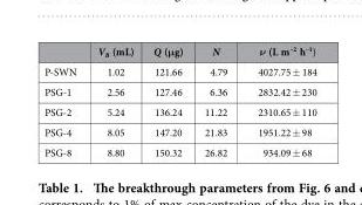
<table><thead><tr><td></td><td>V<sub>B</sub> (mL)</td><td>Q (μg)</td><td>N</td><td>ν (L m<sup>–2</sup> h<sup>–1</sup>)</td></tr></thead><tbody><tr><td>P-SWN</td><td>1.02</td><td>121.66</td><td>4.79</td><td>4027.75 ± 184</td></tr><tr><td>PSG-1</td><td>2.56</td><td>127.46</td><td>6.36</td><td>2832.42 ± 230</td></tr><tr><td>PSG-2</td><td>5.24</td><td>136.24</td><td>11.22</td><td>2310.65 ± 110</td></tr><tr><td>PSG-4</td><td>8.05</td><td>147.20</td><td>21.83</td><td>1951.22 ± 98</td></tr><tr><td>PSG-8</td><td>8.80</td><td>150.32</td><td>26.82</td><td>934.09 ± 68</td></tr></tbody></table>